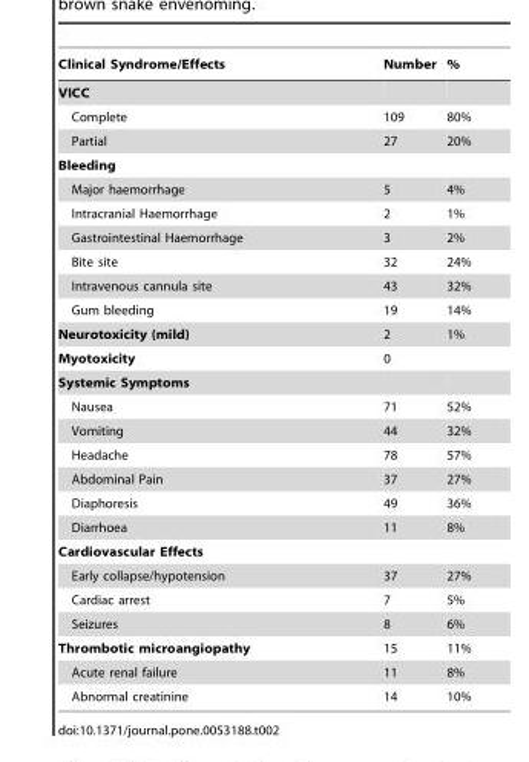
<table><thead><tr><td>Clinical Syndrome/Effects</td><td>Number</td><td>%</td></tr></thead><tbody><tr><td colspan="3">VICC</td></tr><tr><td>Complete</td><td>109</td><td>80%</td></tr><tr><td>Partial</td><td>27</td><td>20%</td></tr><tr><td colspan="3">Bleeding</td></tr><tr><td>Major haemorrhage</td><td>5</td><td>4%</td></tr><tr><td>Intracranial Haemorrhage</td><td>2</td><td>1%</td></tr><tr><td>Gastrointestinal Haemorrhage</td><td>3</td><td>2%</td></tr><tr><td>Bite site</td><td>32</td><td>24%</td></tr><tr><td>Intravenous cannula site</td><td>43</td><td>32%</td></tr><tr><td>Gum bleeding</td><td>19</td><td>14%</td></tr><tr><td>Neurotoxicity (mild)</td><td>2</td><td>1%</td></tr><tr><td>Myotoxicity</td><td>0</td><td></td></tr><tr><td colspan="3">Systemic Symptoms</td></tr><tr><td>Nausea</td><td>71</td><td>52%</td></tr><tr><td>Vomiting</td><td>44</td><td>32%</td></tr><tr><td>Headache</td><td>78</td><td>57%</td></tr><tr><td>Abdominal Pain</td><td>37</td><td>27%</td></tr><tr><td>Diaphoresis</td><td>49</td><td>36%</td></tr><tr><td>Diarrhoea</td><td>11</td><td>8%</td></tr><tr><td colspan="3">Cardiovascular Effects</td></tr><tr><td>Early collapse/hypotension</td><td>37</td><td>27%</td></tr><tr><td>Cardiac arrest</td><td>7</td><td>5%</td></tr><tr><td>Seizures</td><td>8</td><td>6%</td></tr><tr><td>Thrombotic microangiopathy</td><td>15</td><td>11%</td></tr><tr><td>Acute renal failure</td><td>11</td><td>8%</td></tr><tr><td>Abnormal creatinine</td><td>14</td><td>10%</td></tr></tbody></table>